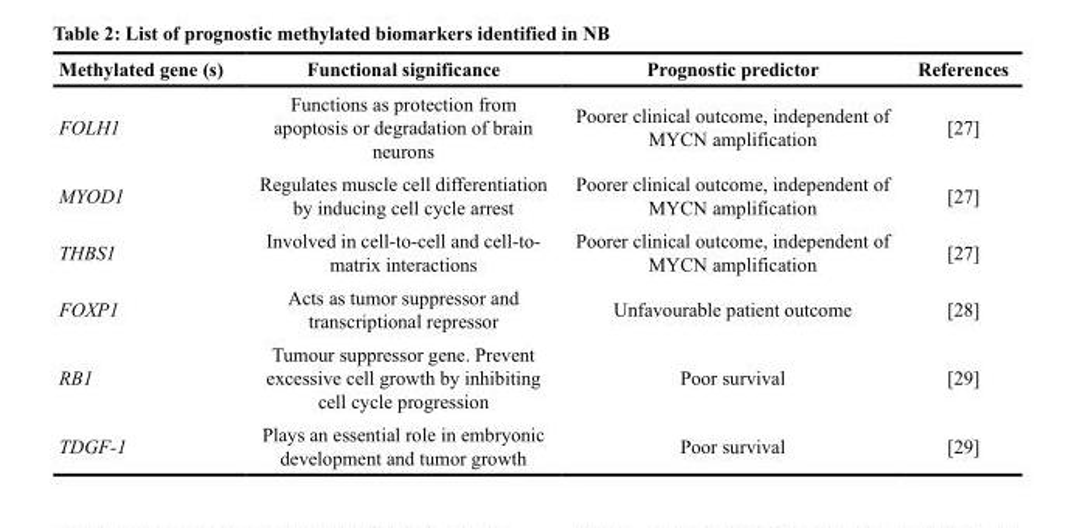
<table><thead><tr><td>Methylated gene (s)</td><td>Functional significance</td><td>Prognostic predictor</td><td>References</td></tr></thead><tbody><tr><td>FOLH1</td><td>Functions as protection from apoptosis or degradation of brain neurons</td><td>Poorer clinical outcome, independent of MYCN amplification</td><td>[27]</td></tr><tr><td>MYOD1</td><td>Regulates muscle cell differentiation by inducing cell cycle arrest</td><td>Poorer clinical outcome, independent of MYCN amplification</td><td>[27]</td></tr><tr><td>THBS1</td><td>Involved in cell-to-cell and cell-to- matrix interactions</td><td>Poorer clinical outcome, independent of MYCN amplification</td><td>[27]</td></tr><tr><td>FOXP1</td><td>Acts as tumor suppressor and transcriptional repressor</td><td>Unfavourable patient outcome</td><td>[28]</td></tr><tr><td>RB1</td><td>Tumour suppressor gene. Prevent excessive cell growth by inhibiting cell cycle progression</td><td>Poor survival</td><td>[29]</td></tr><tr><td>TDGF-1</td><td>Plays an essential role in embryonic development and tumor growth</td><td>Poor survival</td><td>[29]</td></tr></tbody></table>